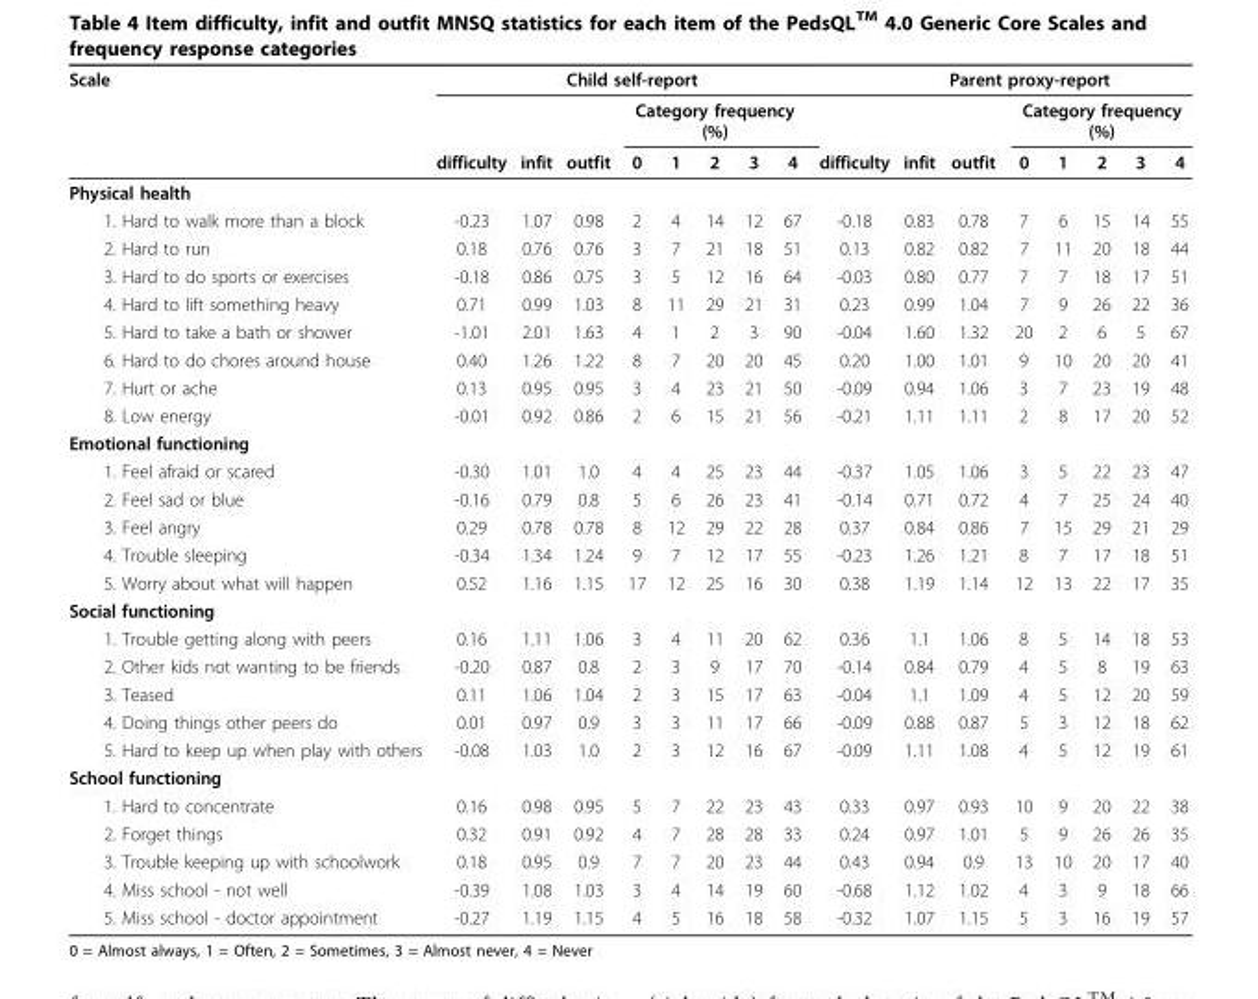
<table><thead><tr><td rowspan="3">Scale</td><td rowspan="3">difficulty</td><td rowspan="3">infit</td><td colspan="4">Child self-report</td><td></td><td></td><td rowspan="3">difficulty</td><td rowspan="3">infit</td><td colspan="4">Parent proxy-report</td><td></td><td></td></tr><tr><td rowspan="2">outfit</td><td colspan="5">Category frequency (%)</td><td rowspan="2">outfit</td><td colspan="5">Category frequency (%)</td></tr><tr><td>0</td><td>1</td><td>2</td><td>3</td><td>4</td><td>0</td><td>1</td><td>2</td><td>3</td><td>4</td></tr></thead><tbody><tr><td colspan="17">Physical health</td></tr><tr><td>1. Hard to walk more than a block</td><td>-0.23</td><td>1.07</td><td>0.98</td><td>2</td><td>4</td><td>14</td><td>12</td><td>67</td><td>-0.18</td><td>0.83</td><td>0.78</td><td>7</td><td>6</td><td>15</td><td>14</td><td>55</td></tr><tr><td>2. Hard to run</td><td>0.18</td><td>0.76</td><td>0.76</td><td>3</td><td>7</td><td>21</td><td>18</td><td>51</td><td>0.13</td><td>0.82</td><td>0.82</td><td>7</td><td>11</td><td>20</td><td>18</td><td>44</td></tr><tr><td>3. Hard to do sports or exercises</td><td>-0.18</td><td>0.86</td><td>0.75</td><td>3</td><td>5</td><td>12</td><td>16</td><td>64</td><td>-0.03</td><td>0.80</td><td>0.77</td><td>7</td><td>7</td><td>18</td><td>17</td><td>51</td></tr><tr><td>4. Hard to lift something heavy</td><td>0.71</td><td>0.99</td><td>1.03</td><td>8</td><td>11</td><td>29</td><td>21</td><td>31</td><td>0.23</td><td>0.99</td><td>1.04</td><td>7</td><td>9</td><td>26</td><td>22</td><td>36</td></tr><tr><td>5. Hard to take a bath or shower</td><td>-1.01</td><td>2.01</td><td>1.63</td><td>4</td><td>1</td><td>2</td><td>3</td><td>90</td><td>-0.04</td><td>1.60</td><td>1.32</td><td>20</td><td>2</td><td>6</td><td>5</td><td>67</td></tr><tr><td>6. Hard to do chores around house</td><td>0.40</td><td>1.26</td><td>1.22</td><td>8</td><td>7</td><td>20</td><td>20</td><td>45</td><td>0.20</td><td>1.00</td><td>1.01</td><td>9</td><td>10</td><td>20</td><td>20</td><td>41</td></tr><tr><td>7. Hurt or ache</td><td>0.13</td><td>0.95</td><td>0.95</td><td>3</td><td>4</td><td>23</td><td>21</td><td>50</td><td>-0.09</td><td>0.94</td><td>1.06</td><td>3</td><td>7</td><td>23</td><td>19</td><td>48</td></tr><tr><td>8. Low energy</td><td>-0.01</td><td>0.92</td><td>0.86</td><td>2</td><td>6</td><td>15</td><td>21</td><td>56</td><td>-0.21</td><td>1.11</td><td>1.11</td><td>2</td><td>8</td><td>17</td><td>20</td><td>52</td></tr><tr><td colspan="17">Emotional functioning</td></tr><tr><td>1. Feel afraid or scared</td><td>-0.30</td><td>1.01</td><td>1.0</td><td>4</td><td>4</td><td>25</td><td>23</td><td>44</td><td>-0.37</td><td>1.05</td><td>1.06</td><td>3</td><td>5</td><td>22</td><td>23</td><td>47</td></tr><tr><td>2. Feel sad or blue</td><td>-0.16</td><td>0.79</td><td>0.8</td><td>5</td><td>6</td><td>26</td><td>23</td><td>41</td><td>-0.14</td><td>0.71</td><td>0.72</td><td>4</td><td>7</td><td>25</td><td>24</td><td>40</td></tr><tr><td>3. Feel angry</td><td>0.29</td><td>0.78</td><td>0.78</td><td>8</td><td>12</td><td>29</td><td>22</td><td>28</td><td>0.37</td><td>0.84</td><td>0.86</td><td>7</td><td>15</td><td>29</td><td>21</td><td>29</td></tr><tr><td>4. Trouble sleeping</td><td>-0.34</td><td>1.34</td><td>1.24</td><td>9</td><td>7</td><td>12</td><td>17</td><td>55</td><td>-0.23</td><td>1.26</td><td>1.21</td><td>8</td><td>7</td><td>17</td><td>18</td><td>51</td></tr><tr><td>5. Worry about what will happen</td><td>0.52</td><td>1.16</td><td>1.15</td><td>17</td><td>12</td><td>25</td><td>16</td><td>30</td><td>0.38</td><td>1.19</td><td>1.14</td><td>12</td><td>13</td><td>22</td><td>17</td><td>35</td></tr><tr><td colspan="17">Social functioning</td></tr><tr><td>1. Trouble getting along with peers</td><td>0.16</td><td>1.11</td><td>1.06</td><td>3</td><td>4</td><td>11</td><td>20</td><td>62</td><td>0.36</td><td>1.1</td><td>1.06</td><td>8</td><td>5</td><td>14</td><td>18</td><td>53</td></tr><tr><td>2. Other kids not wanting to be friends</td><td>-0.20</td><td>0.87</td><td>0.8</td><td>2</td><td>3</td><td>9</td><td>17</td><td>70</td><td>-0.14</td><td>0.84</td><td>0.79</td><td>4</td><td>5</td><td>8</td><td>19</td><td>63</td></tr><tr><td>3. Teased</td><td>0.11</td><td>1.06</td><td>1.04</td><td>2</td><td>3</td><td>15</td><td>17</td><td>63</td><td>-0.04</td><td>1.1</td><td>1.09</td><td>4</td><td>5</td><td>12</td><td>20</td><td>59</td></tr><tr><td>4. Doing things other peers do</td><td>0.01</td><td>0.97</td><td>0.9</td><td>3</td><td>3</td><td>11</td><td>17</td><td>66</td><td>-0.09</td><td>0.88</td><td>0.87</td><td>5</td><td>3</td><td>12</td><td>18</td><td>62</td></tr><tr><td>5. Hard to keep up when play with others</td><td>-0.08</td><td>1.03</td><td>1.0</td><td>2</td><td>3</td><td>12</td><td>16</td><td>67</td><td>-0.09</td><td>1.11</td><td>1.08</td><td>4</td><td>5</td><td>12</td><td>19</td><td>61</td></tr><tr><td colspan="17">School functioning</td></tr><tr><td>1. Hard to concentrate</td><td>0.16</td><td>0.98</td><td>0.95</td><td>5</td><td>7</td><td>22</td><td>23</td><td>43</td><td>0.33</td><td>0.97</td><td>0.93</td><td>10</td><td>9</td><td>20</td><td>22</td><td>38</td></tr><tr><td>2. Forget things</td><td>0.32</td><td>0.91</td><td>0.92</td><td>4</td><td>7</td><td>28</td><td>28</td><td>33</td><td>0.24</td><td>0.97</td><td>1.01</td><td>5</td><td>9</td><td>26</td><td>26</td><td>35</td></tr><tr><td>3. Trouble keeping up with schoolwork</td><td>0.18</td><td>0.95</td><td>0.9</td><td>7</td><td>7</td><td>20</td><td>23</td><td>44</td><td>0.43</td><td>0.94</td><td>0.9</td><td>13</td><td>10</td><td>20</td><td>17</td><td>40</td></tr><tr><td>4. Miss school - not well</td><td>-0.39</td><td>1.08</td><td>1.03</td><td>3</td><td>4</td><td>14</td><td>19</td><td>60</td><td>-0.68</td><td>1.12</td><td>1.02</td><td>4</td><td>3</td><td>9</td><td>18</td><td>66</td></tr><tr><td>5. Miss school - doctor appointment</td><td>-0.27</td><td>1.19</td><td>1.15</td><td>4</td><td>5</td><td>16</td><td>18</td><td>58</td><td>-0.32</td><td>1.07</td><td>1.15</td><td>5</td><td>3</td><td>16</td><td>19</td><td>57</td></tr></tbody></table>